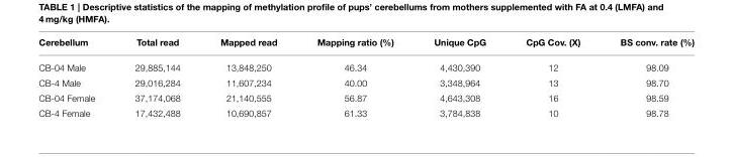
<table><thead><tr><td>Cerebellum</td><td>Total read</td><td>Mapped read</td><td>Mapping ratio (%)</td><td>Unique CpG</td><td>CpG Cov. (X)</td><td>BS conv. rate (%)</td></tr></thead><tbody><tr><td>CB-04 Male</td><td>29,885,144</td><td>13,848,250</td><td>46.34</td><td>4,430,390</td><td>12</td><td>98.09</td></tr><tr><td>CB-4 Male</td><td>29,016,284</td><td>11,607,234</td><td>40.00</td><td>3,348,964</td><td>13</td><td>98.70</td></tr><tr><td>CB-04 Female</td><td>37,174,068</td><td>21,140,555</td><td>56.87</td><td>4,643,308</td><td>16</td><td>98.59</td></tr><tr><td>CB-4 Female</td><td>17,432,488</td><td>10,690,857</td><td>61.33</td><td>3,784,838</td><td>10</td><td>98.78</td></tr></tbody></table>